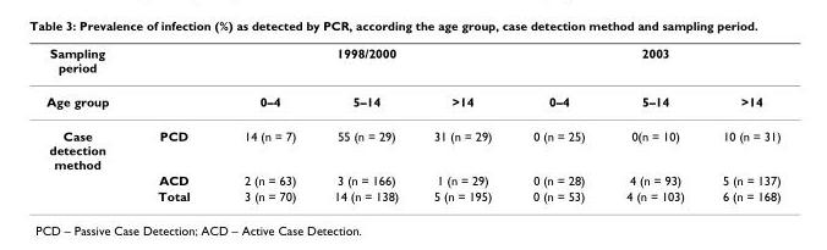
<table><thead><tr><td rowspan="2">Sampling period Age group</td><td rowspan="2"></td><td colspan="3">1998/2000</td><td colspan="3">2003</td></tr><tr><td>0–4</td><td>5–14</td><td>&gt;14</td><td>0–4</td><td>5–14</td><td>&gt;14</td></tr></thead><tbody><tr><td rowspan="3">Case detection method</td><td>PCD</td><td>14 (n = 7)</td><td>55 (n = 29)</td><td>31 (n = 29)</td><td>0 (n = 25)</td><td>0(n = 10)</td><td>10 (n = 31)</td></tr><tr><td>ACD</td><td>2 (n = 63)</td><td>3 (n = 166)</td><td>1 (n = 29)</td><td>0 (n = 28)</td><td>4 (n = 93)</td><td>5 (n = 137)</td></tr><tr><td>Total</td><td>3 (n = 70)</td><td>14 (n = 138)</td><td>5 (n = 195)</td><td>0 (n = 53)</td><td>4 (n = 103)</td><td>6 (n = 168)</td></tr></tbody></table>